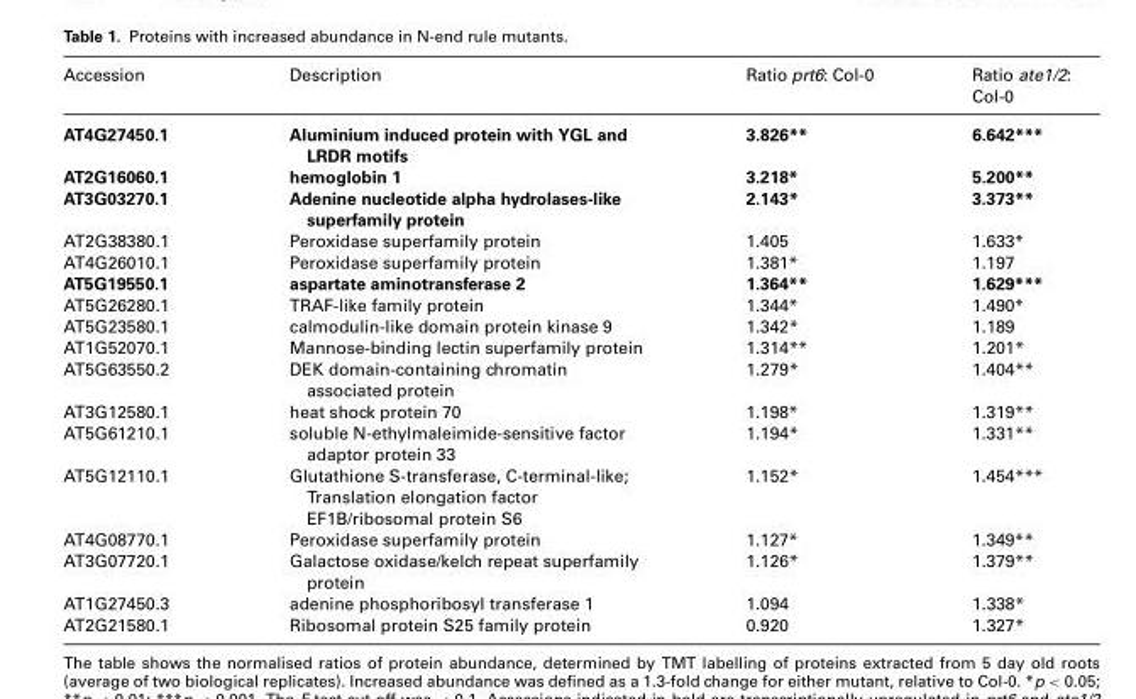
<table><thead><tr><td>Accession</td><td>Description</td><td>Ratio prt6: Col-0</td><td>Ratio ate1/2: Col-0</td></tr></thead><tbody><tr><td>AT4G27450.1</td><td>Aluminium induced protein with YGL and LRDR motifs</td><td>3.826**</td><td>6.642***</td></tr><tr><td>AT2G16060.1</td><td>hemoglobin 1</td><td>3.218*</td><td>5.200**</td></tr><tr><td>AT3G03270.1</td><td>Adenine nucleotide alpha hydrolases-like superfamily protein</td><td>2.143*</td><td>3.373**</td></tr><tr><td>AT2G38380.1</td><td>Peroxidase superfamily protein</td><td>1.405</td><td>1.633*</td></tr><tr><td>AT4G26010.1</td><td>Peroxidase superfamily protein</td><td>1.381*</td><td>1.197</td></tr><tr><td>AT5G19550.1</td><td>aspartate aminotransferase 2</td><td>1.364**</td><td>1.629***</td></tr><tr><td>AT5G26280.1</td><td>TRAF-like family protein</td><td>1.344*</td><td>1.490*</td></tr><tr><td>AT5G23580.1</td><td>calmodulin-like domain protein kinase 9</td><td>1.342*</td><td>1.189</td></tr><tr><td>AT1G52070.1</td><td>Mannose-binding lectin superfamily protein</td><td>1.314**</td><td>1.201*</td></tr><tr><td>AT5G63550.2</td><td>DEK domain-containing chromatin associated protein</td><td>1.279*</td><td>1.404**</td></tr><tr><td>AT3G12580.1</td><td>heat shock protein 70</td><td>1.198*</td><td>1.319**</td></tr><tr><td>AT5G61210.1</td><td>soluble N-ethylmaleimide-sensitive factor adaptor protein 33</td><td>1.194*</td><td>1.331**</td></tr><tr><td>AT5G12110.1</td><td>Glutathione S-transferase, C-terminal-like; Translation elongation factor EF1B/ribosomal protein S6</td><td>1.152*</td><td>1.454***</td></tr><tr><td>AT4G08770.1</td><td>Peroxidase superfamily protein</td><td>1.127*</td><td>1.349**</td></tr><tr><td>AT3G07720.1</td><td>Galactose oxidase/kelch repeat superfamily protein</td><td>1.126*</td><td>1.379**</td></tr><tr><td>AT1G27450.3</td><td>adenine phosphoribosyl transferase 1</td><td>1.094</td><td>1.338*</td></tr><tr><td>AT2G21580.1</td><td>Ribosomal protein S25 family protein</td><td>0.920</td><td>1.327*</td></tr></tbody></table>